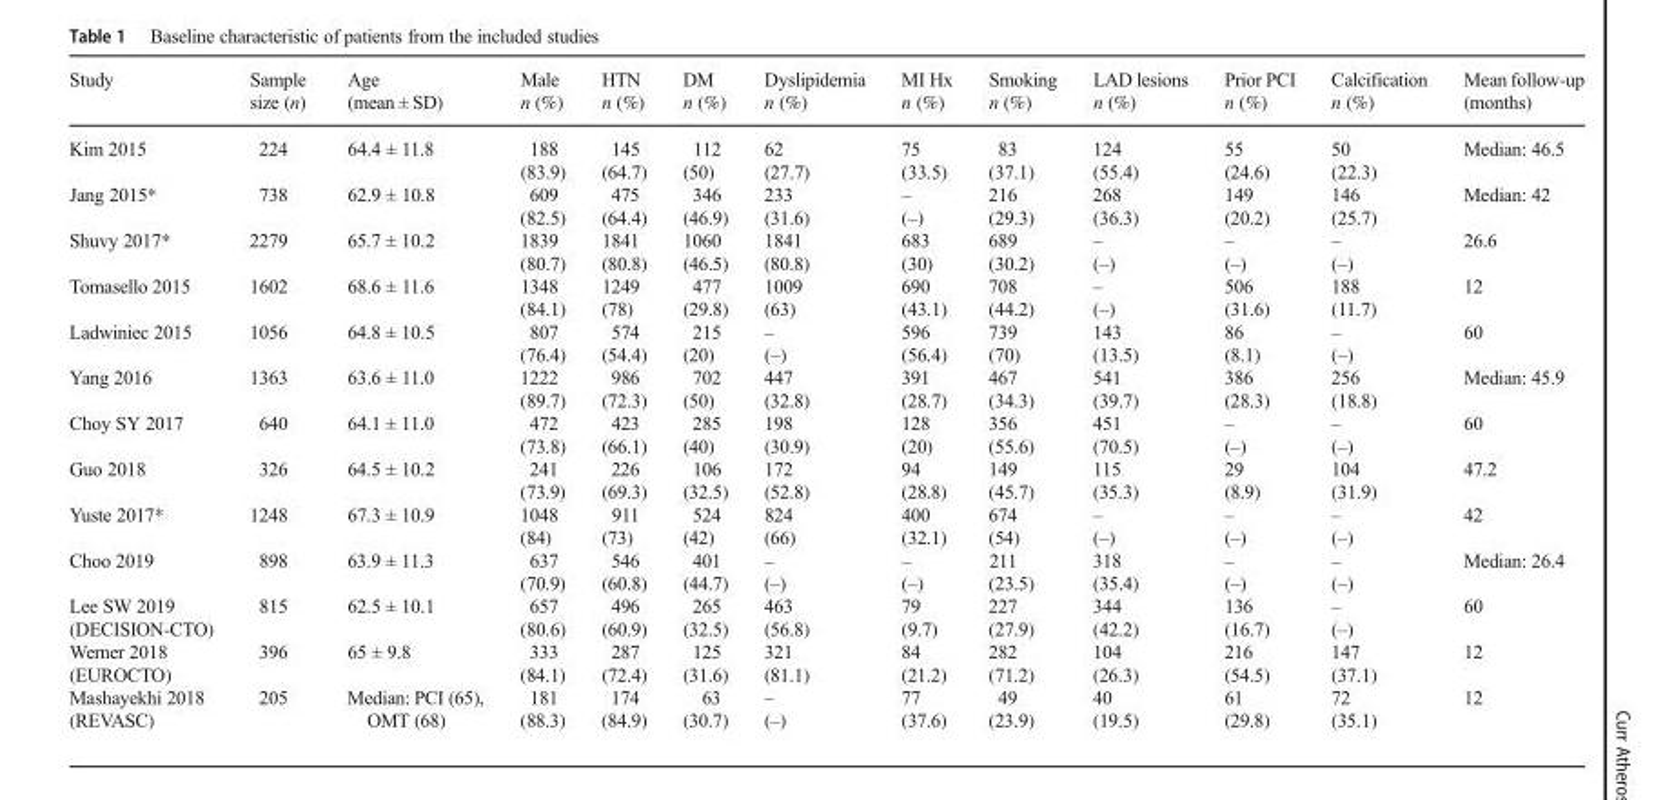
<table><thead><tr><td>Study</td><td>Sample size (n)</td><td>Age (mean ± SD)</td><td>Male n (%)</td><td>HTN n (%)</td><td>DM n (%)</td><td>Dyslipidemia n (%)</td><td>MI Hx n (%)</td><td>Smoking n (%)</td><td>LAD lesions n (%)</td><td>Prior PCI n (%)</td><td>Calcification n (%)</td><td>Mean follow-up (months)</td></tr></thead><tbody><tr><td>Kim 2015</td><td>224</td><td>64.4 ± 11.8</td><td>188 (83.9)</td><td>145 (64.7)</td><td>112 (50)</td><td>62 (27.7)</td><td>75 (33.5)</td><td>83 (37.1)</td><td>124 (55.4)</td><td>55 (24.6)</td><td>50 (22.3)</td><td>Median: 46.5</td></tr><tr><td>Jang 2015*</td><td>738</td><td>62.9 ± 10.8</td><td>609 (82.5)</td><td>475 (64.4)</td><td>346 (46.9)</td><td>233 (31.6)</td><td>– (–)</td><td>216 (29.3)</td><td>268 (36.3)</td><td>149 (20.2)</td><td>146 (25.7)</td><td>Median: 42</td></tr><tr><td>Shuvy 2017*</td><td>2279</td><td>65.7 ± 10.2</td><td>1839 (80.7)</td><td>1841 (80.8)</td><td>1060 (46.5)</td><td>1841 (80.8)</td><td>683 (30)</td><td>689 (30.2)</td><td>– (–)</td><td>– (–)</td><td>– (–)</td><td>26.6</td></tr><tr><td>Tomasello 2015</td><td>1602</td><td>68.6 ± 11.6</td><td>1348 (84.1)</td><td>1249 (78)</td><td>477 (29.8)</td><td>1009 (63)</td><td>690 (43.1)</td><td>708 (44.2)</td><td>– (–)</td><td>506 (31.6)</td><td>188 (11.7)</td><td>12</td></tr><tr><td>Ladwiniec 2015</td><td>1056</td><td>64.8 ± 10.5</td><td>807 (76.4)</td><td>574 (54.4)</td><td>215 (20)</td><td>– (–)</td><td>596 (56.4)</td><td>739 (70)</td><td>143 (13.5)</td><td>86 (8.1)</td><td>– (–)</td><td>60</td></tr><tr><td>Yang 2016</td><td>1363</td><td>63.6 ± 11.0</td><td>1222 (89.7)</td><td>986 (72.3)</td><td>702 (50)</td><td>447 (32.8)</td><td>391 (28.7)</td><td>467 (34.3)</td><td>541 (39.7)</td><td>386 (28.3)</td><td>256 (18.8)</td><td>Median: 45.9</td></tr><tr><td>Choy SY 2017</td><td>640</td><td>64.1 ± 11.0</td><td>472 (73.8)</td><td>423 (66.1)</td><td>285 (40)</td><td>198 (30.9)</td><td>128 (20)</td><td>356 (55.6)</td><td>451 (70.5)</td><td>– (–)</td><td>– (–)</td><td>60</td></tr><tr><td>Guo 2018</td><td>326</td><td>64.5 ± 10.2</td><td>241 (73.9)</td><td>226 (69.3)</td><td>106 (32.5)</td><td>172 (52.8)</td><td>94 (28.8)</td><td>149 (45.7)</td><td>115 (35.3)</td><td>29 (8.9)</td><td>104 (31.9)</td><td>47.2</td></tr><tr><td>Yuste 2017*</td><td>1248</td><td>67.3 ± 10.9</td><td>1048 (84)</td><td>911 (73)</td><td>524 (42)</td><td>824 (66)</td><td>400 (32.1)</td><td>674 (54)</td><td>– (–)</td><td>– (–)</td><td>– (–)</td><td>42</td></tr><tr><td>Choo 2019</td><td>898</td><td>63.9 ± 11.3</td><td>637 (70.9)</td><td>546 (60.8)</td><td>401 (44.7)</td><td>– (–)</td><td>– (–)</td><td>211 (23.5)</td><td>318 (35.4)</td><td>– (–)</td><td>– (–)</td><td>Median: 26.4</td></tr><tr><td>Lee SW 2019 (DECISION-CTO)</td><td>815</td><td>62.5 ± 10.1</td><td>657 (80.6)</td><td>496 (60.9)</td><td>265 (32.5)</td><td>463 (56.8)</td><td>79 (9.7)</td><td>227 (27.9)</td><td>344 (42.2)</td><td>136 (16.7)</td><td>– (–)</td><td>60</td></tr><tr><td>Werner 2018 (EUROCTO)</td><td>396</td><td>65 ± 9.8</td><td>333 (84.1)</td><td>287 (72.4)</td><td>125 (31.6)</td><td>321 (81.1)</td><td>84 (21.2)</td><td>282 (71.2)</td><td>104 (26.3)</td><td>216 (54.5)</td><td>147 (37.1)</td><td>12</td></tr><tr><td>Mashayekhi 2018 (REVASC)</td><td>205</td><td>Median: PCI (65), OMT (68)</td><td>181 (88.3)</td><td>174 (84.9)</td><td>63 (30.7)</td><td>– (–)</td><td>77 (37.6)</td><td>49 (23.9)</td><td>40 (19.5)</td><td>61 (29.8)</td><td>72 (35.1)</td><td>12</td></tr></tbody></table>